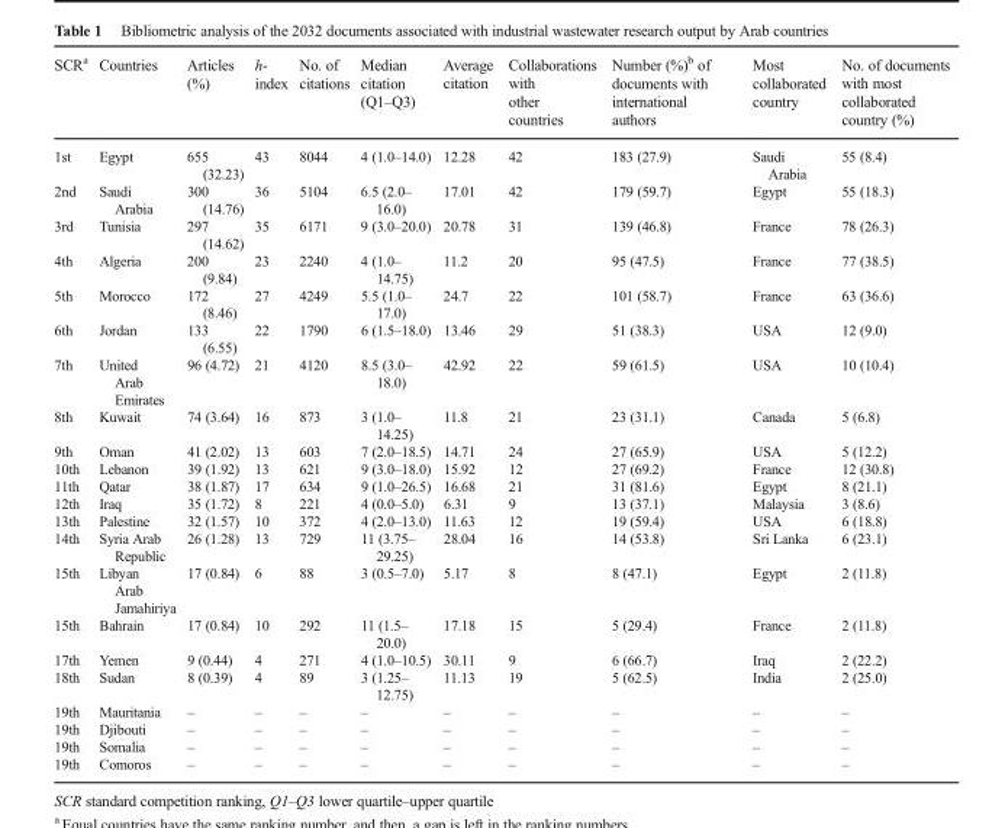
<table><thead><tr><td>SCR<sup>a</sup></td><td>Countries</td><td>Articles (%)</td><td>h- index</td><td>No. of citations</td><td>Median citation (Q1–Q3)</td><td>Average citation</td><td>Collaborations with other countries</td><td>Number (%)<sup>b</sup> of documents with international authors</td><td>Most collaborated country</td><td>No. of documents with most collaborated country (%)</td></tr></thead><tbody><tr><td>1st</td><td>Egypt</td><td>655 (32.23)</td><td>43</td><td>8044</td><td>4 (1.0–14.0)</td><td>12.28</td><td>42</td><td>183 (27.9)</td><td>Saudi Arabia</td><td>55 (8.4)</td></tr><tr><td>2nd</td><td>Saudi Arabia</td><td>300 (14.76)</td><td>36</td><td>5104</td><td>6.5 (2.0– 16.0)</td><td>17.01</td><td>42</td><td>179 (59.7)</td><td>Egypt</td><td>55 (18.3)</td></tr><tr><td>3rd</td><td>Tunisia</td><td>297 (14.62)</td><td>35</td><td>6171</td><td>9 (3.0–20.0)</td><td>20.78</td><td>31</td><td>139 (46.8)</td><td>France</td><td>78 (26.3)</td></tr><tr><td>4th</td><td>Algeria</td><td>200 (9.84)</td><td>23</td><td>2240</td><td>4 (1.0– 14.75)</td><td>11.2</td><td>20</td><td>95 (47.5)</td><td>France</td><td>77 (38.5)</td></tr><tr><td>5th</td><td>Morocco</td><td>172 (8.46)</td><td>27</td><td>4249</td><td>5.5 (1.0– 17.0)</td><td>24.7</td><td>22</td><td>101 (58.7)</td><td>France</td><td>63 (36.6)</td></tr><tr><td>6th</td><td>Jordan</td><td>133 (6.55)</td><td>22</td><td>1790</td><td>6 (1.5–18.0)</td><td>13.46</td><td>29</td><td>51 (38.3)</td><td>USA</td><td>12 (9.0)</td></tr><tr><td>7th</td><td>United Arab Emirates</td><td>96 (4.72)</td><td>21</td><td>4120</td><td>8.5 (3.0– 18.0)</td><td>42.92</td><td>22</td><td>59 (61.5)</td><td>USA</td><td>10 (10.4)</td></tr><tr><td>8th</td><td>Kuwait</td><td>74 (3.64)</td><td>16</td><td>873</td><td>3 (1.0– 14.25)</td><td>11.8</td><td>21</td><td>23 (31.1)</td><td>Canada</td><td>5 (6.8)</td></tr><tr><td>9th</td><td>Oman</td><td>41 (2.02)</td><td>13</td><td>603</td><td>7 (2.0–18.5)</td><td>14.71</td><td>24</td><td>27 (65.9)</td><td>USA</td><td>5 (12.2)</td></tr><tr><td>10th</td><td>Lebanon</td><td>39 (1.92)</td><td>13</td><td>621</td><td>9 (3.0–18.0)</td><td>15.92</td><td>12</td><td>27 (69.2)</td><td>France</td><td>12 (30.8)</td></tr><tr><td>11th</td><td>Qatar</td><td>38 (1.87)</td><td>17</td><td>634</td><td>9 (1.0–26.5)</td><td>16.68</td><td>21</td><td>31 (81.6)</td><td>Egypt</td><td>8 (21.1)</td></tr><tr><td>12th</td><td>Iraq</td><td>35 (1.72)</td><td>8</td><td>221</td><td>4 (0.0–5.0)</td><td>6.31</td><td>9</td><td>13 (37.1)</td><td>Malaysia</td><td>3 (8.6)</td></tr><tr><td>13th</td><td>Palestine</td><td>32 (1.57)</td><td>10</td><td>372</td><td>4 (2.0–13.0)</td><td>11.63</td><td>12</td><td>19 (59.4)</td><td>USA</td><td>6 (18.8)</td></tr><tr><td>14th</td><td>Syria Arab Republic</td><td>26 (1.28)</td><td>13</td><td>729</td><td>11 (3.75– 29.25)</td><td>28.04</td><td>16</td><td>14 (53.8)</td><td>Sri Lanka</td><td>6 (23.1)</td></tr><tr><td>15th</td><td>Libyan Arab Jamahiriya</td><td>17 (0.84)</td><td>6</td><td>88</td><td>3 (0.5–7.0)</td><td>5.17</td><td>8</td><td>8 (47.1)</td><td>Egypt</td><td>2 (11.8)</td></tr><tr><td>15th</td><td>Bahrain</td><td>17 (0.84)</td><td>10</td><td>292</td><td>11 (1.5– 20.0)</td><td>17.18</td><td>15</td><td>5 (29.4)</td><td>France</td><td>2 (11.8)</td></tr><tr><td>17th</td><td>Yemen</td><td>9 (0.44)</td><td>4</td><td>271</td><td>4 (1.0–10.5)</td><td>30.11</td><td>9</td><td>6 (66.7)</td><td>Iraq</td><td>2 (22.2)</td></tr><tr><td>18th</td><td>Sudan</td><td>8 (0.39)</td><td>4</td><td>89</td><td>3 (1.25– 12.75)</td><td>11.13</td><td>19</td><td>5 (62.5)</td><td>India</td><td>2 (25.0)</td></tr><tr><td>19th</td><td>Mauritania</td><td>–</td><td>–</td><td>–</td><td>–</td><td>–</td><td>–</td><td>–</td><td>–</td><td>–</td></tr><tr><td>19th</td><td>Djibouti</td><td>–</td><td>–</td><td>–</td><td>–</td><td>–</td><td>–</td><td>–</td><td>–</td><td>–</td></tr><tr><td>19th</td><td>Somalia</td><td>–</td><td>–</td><td>–</td><td>–</td><td>–</td><td>–</td><td>–</td><td>–</td><td>–</td></tr><tr><td>19th</td><td>Comoros</td><td>–</td><td>–</td><td>–</td><td>–</td><td>–</td><td>–</td><td>–</td><td>–</td><td>–</td></tr></tbody></table>